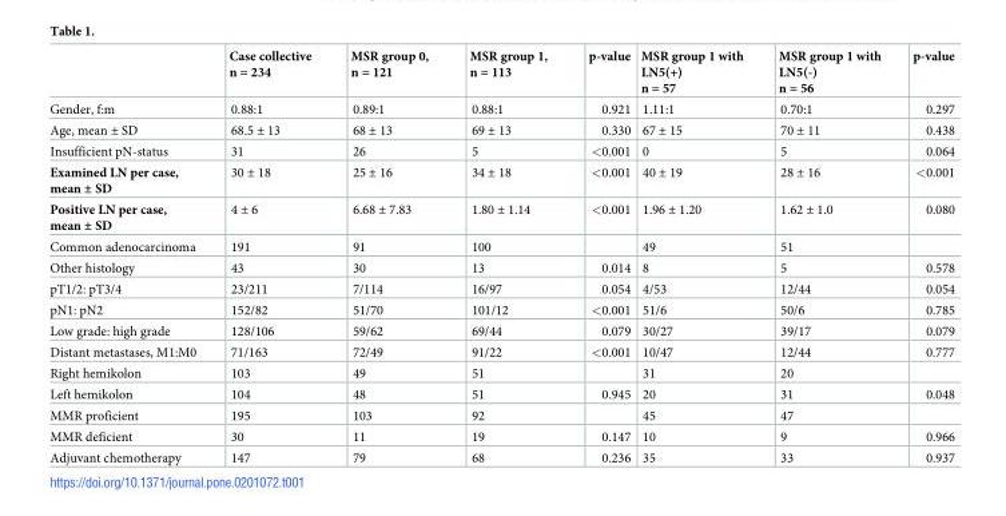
<table><thead><tr><td></td><td>Case collective n = 234</td><td>MSR group 0, n = 121</td><td>MSR group 1, n = 113</td><td>p-value</td><td>MSR group 1 with LN5(+) n = 57</td><td>MSR group 1 with LN5(-) n = 56</td><td>p-value</td></tr></thead><tbody><tr><td>Gender, f:m</td><td>0.88:1</td><td>0.89:1</td><td>0.88:1</td><td>0.921</td><td>1.11:1</td><td>0.70:1</td><td>0.297</td></tr><tr><td>Age, mean ± SD</td><td>68.5 ± 13</td><td>68 ± 13</td><td>69 ± 13</td><td>0.330</td><td>67 ± 15</td><td>70 ± 11</td><td>0.438</td></tr><tr><td>Insufficient pN-status</td><td>31</td><td>26</td><td>5</td><td>&lt;0.001</td><td>0</td><td>5</td><td>0.064</td></tr><tr><td>Examined LN per case, mean ± SD</td><td>30 ± 18</td><td>25 ± 16</td><td>34 ± 18</td><td>&lt;0.001</td><td>40 ± 19</td><td>28 ± 16</td><td>&lt;0.001</td></tr><tr><td>Positive LN per case, mean ± SD</td><td>4 ± 6</td><td>6.68 ± 7.83</td><td>1.80 ± 1.14</td><td>&lt;0.001</td><td>1.96 ± 1.20</td><td>1.62 ± 1.0</td><td>0.080</td></tr><tr><td>Common adenocarcinoma</td><td>191</td><td>91</td><td>100</td><td></td><td>49</td><td>51</td><td></td></tr><tr><td>Other histology</td><td>43</td><td>30</td><td>13</td><td>0.014</td><td>8</td><td>5</td><td>0.578</td></tr><tr><td>pT1/2: pT3/4</td><td>23/211</td><td>7/114</td><td>16/97</td><td>0.054</td><td>4/53</td><td>12/44</td><td>0.054</td></tr><tr><td>pN1: pN2</td><td>152/82</td><td>51/70</td><td>101/12</td><td>&lt;0.001</td><td>51/6</td><td>50/6</td><td>0.785</td></tr><tr><td>Low grade: high grade</td><td>128/106</td><td>59/62</td><td>69/44</td><td>0.079</td><td>30/27</td><td>39/17</td><td>0.079</td></tr><tr><td>Distant metastases, M1:M0</td><td>71/163</td><td>72/49</td><td>91/22</td><td>&lt;0.001</td><td>10/47</td><td>12/44</td><td>0.777</td></tr><tr><td>Right hemikolon</td><td>103</td><td>49</td><td>51</td><td></td><td>31</td><td>20</td><td></td></tr><tr><td>Left hemikolon</td><td>104</td><td>48</td><td>51</td><td>0.945</td><td>20</td><td>31</td><td>0.048</td></tr><tr><td>MMR proficient</td><td>195</td><td>103</td><td>92</td><td></td><td>45</td><td>47</td><td></td></tr><tr><td>MMR deficient</td><td>30</td><td>11</td><td>19</td><td>0.147</td><td>10</td><td>9</td><td>0.966</td></tr><tr><td>Adjuvant chemotherapy</td><td>147</td><td>79</td><td>68</td><td>0.236</td><td>35</td><td>33</td><td>0.937</td></tr></tbody></table>